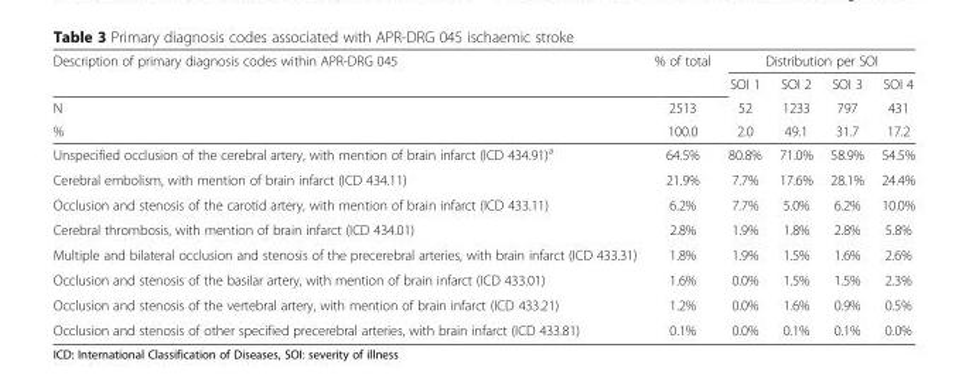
<table><thead><tr><td rowspan="4">Description of primary diagnosis codes within APR-DRG 045 N %</td><td rowspan="4">% of total 2513 100.0</td><td colspan="4">Distribution per SOI</td></tr><tr><td rowspan="3">SOI 1 52 2.0</td><td rowspan="3">SOI 2 1233 49.1</td><td rowspan="3">SOI 3 797 31.7</td><td rowspan="3">SOI 4 431 17.2</td></tr><tr></tr><tr></tr></thead><tbody><tr><td>Unspecified occlusion of the cerebral artery, with mention of brain infarct (ICD 434.91)<sup>a</sup></td><td>64.5%</td><td>80.8%</td><td>71.0%</td><td>58.9%</td><td>54.5%</td></tr><tr><td>Cerebral embolism, with mention of brain infarct (ICD 434.11)</td><td>21.9%</td><td>7.7%</td><td>17.6%</td><td>28.1%</td><td>24.4%</td></tr><tr><td>Occlusion and stenosis of the carotid artery, with mention of brain infarct (ICD 433.11)</td><td>6.2%</td><td>7.7%</td><td>5.0%</td><td>6.2%</td><td>10.0%</td></tr><tr><td>Cerebral thrombosis, with mention of brain infarct (ICD 434.01)</td><td>2.8%</td><td>1.9%</td><td>1.8%</td><td>2.8%</td><td>5.8%</td></tr><tr><td>Multiple and bilateral occlusion and stenosis of the precerebral arteries, with brain infarct (ICD 433.31)</td><td>1.8%</td><td>1.9%</td><td>1.5%</td><td>1.6%</td><td>2.6%</td></tr><tr><td>Occlusion and stenosis of the basilar artery, with mention of brain infarct (ICD 433.01)</td><td>1.6%</td><td>0.0%</td><td>1.5%</td><td>1.5%</td><td>2.3%</td></tr><tr><td>Occlusion and stenosis of the vertebral artery, with mention of brain infarct (ICD 433.21)</td><td>1.2%</td><td>0.0%</td><td>1.6%</td><td>0.9%</td><td>0.5%</td></tr><tr><td>Occlusion and stenosis of other specified precerebral arteries, with brain infarct (ICD 433.81)</td><td>0.1%</td><td>0.0%</td><td>0.1%</td><td>0.1%</td><td>0.0%</td></tr></tbody></table>